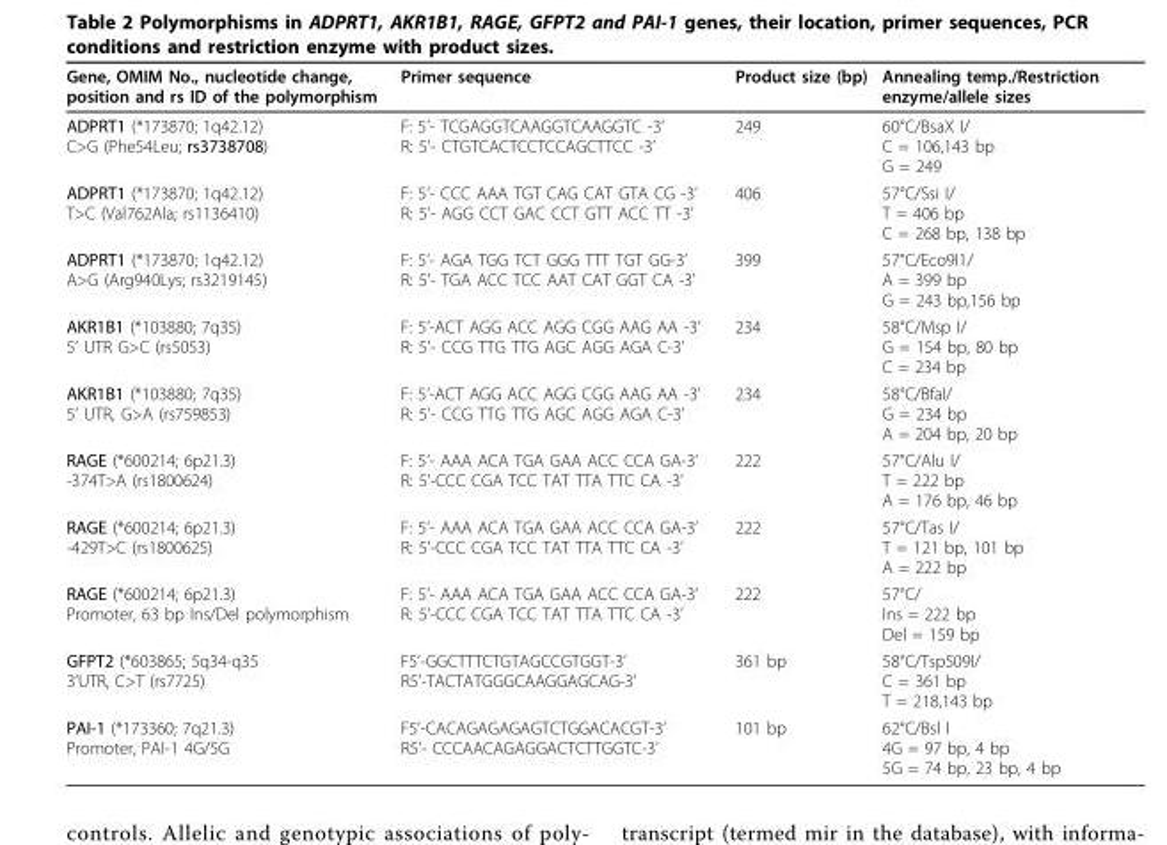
<table><thead><tr><td>Gene, OMIM No., nucleotide change, position and rs ID of the polymorphism</td><td>Primer sequence</td><td>Product size (bp)</td><td>Annealing temp./Restriction enzyme/allele sizes</td></tr></thead><tbody><tr><td>ADPRT1 (*173870; 1q42.12) C&gt;G (Phe54Leu; rs3738708)</td><td>F: 5’- TCGAGGTCAAGGTCAAGGTC -3’ R: 5’- CTGTCACTCCTCCAGCTTCC -3’</td><td>249</td><td>60°C/BsaX I/ C = 106,143 bp G = 249</td></tr><tr><td>ADPRT1 (*173870; 1q42.12) T&gt;C (Val762Ala; rs1136410)</td><td>F: 5’- CCC AAA TGT CAG CAT GTA CG -3’ R: 5’- AGG CCT GAC CCT GTT ACC TT -3’</td><td>406</td><td>57°C/Ssi I/ T = 406 bp C = 268 bp, 138 bp</td></tr><tr><td>ADPRT1 (*173870; 1q42.12) A&gt;G (Arg940Lys; rs3219145)</td><td>F: 5’- AGA TGG TCT GGG TTT TGT GG-3’ R: 5’- TGA ACC TCC AAT CAT GGT CA -3’</td><td>399</td><td>57°C/Eco9I1/ A = 399 bp G = 243 bp,156 bp</td></tr><tr><td>AKR1B1 (*103880; 7q35) 5’ UTR G&gt;C (rs5053)</td><td>F: 5’-ACT AGG ACC AGG CGG AAG AA -3’ R: 5’- CCG TTG TTG AGC AGG AGA C-3’</td><td>234</td><td>58°C/Msp I/ G = 154 bp, 80 bp C = 234 bp</td></tr><tr><td>AKR1B1 (*103880; 7q35) 5’ UTR, G&gt;A (rs759853)</td><td>F: 5’-ACT AGG ACC AGG CGG AAG AA -3’ R: 5’- CCG TTG TTG AGC AGG AGA C-3’</td><td>234</td><td>58°C/BfaI/ G = 234 bp A = 204 bp, 20 bp</td></tr><tr><td>RAGE (*600214; 6p21.3) -374T&gt;A (rs1800624)</td><td>F: 5’- AAA ACA TGA GAA ACC CCA GA-3’ R: 5’-CCC CGA TCC TAT TTA TTC CA -3’</td><td>222</td><td>57°C/Alu I/ T = 222 bp A = 176 bp, 46 bp</td></tr><tr><td>RAGE (*600214; 6p21.3) -429T&gt;C (rs1800625)</td><td>F: 5’- AAA ACA TGA GAA ACC CCA GA-3’ R: 5’-CCC CGA TCC TAT TTA TTC CA -3’</td><td>222</td><td>57°C/Tas I/ T = 121 bp, 101 bp A = 222 bp</td></tr><tr><td>RAGE (*600214; 6p21.3) Promoter, 63 bp Ins/Del polymorphism</td><td>F: 5’- AAA ACA TGA GAA ACC CCA GA-3’ R: 5’-CCC CGA TCC TAT TTA TTC CA -3’</td><td>222</td><td>57°C/ Ins = 222 bp Del = 159 bp</td></tr><tr><td>GFPT2 (*603865; 5q34-q35 3’UTR, C&gt;T (rs7725)</td><td>F5’-GGCTTTCTGTAGCCGTGGT-3’ R5’-TACTATGGGCAAGGAGCAG-3’</td><td>361 bp</td><td>58°C/Tsp509I/ C = 361 bp T = 218,143 bp</td></tr><tr><td>PAI-1 (*173360; 7q21.3) Promoter, PAI-1 4G/5G</td><td>F5’-CACAGAGAGAGTCTGGACACGT-3’ R5’- CCCAACAGAGGACTCTTGGTC-3’</td><td>101 bp</td><td>62°C/Bsl I 4G = 97 bp, 4 bp 5G = 74 bp, 23 bp, 4 bp</td></tr></tbody></table>